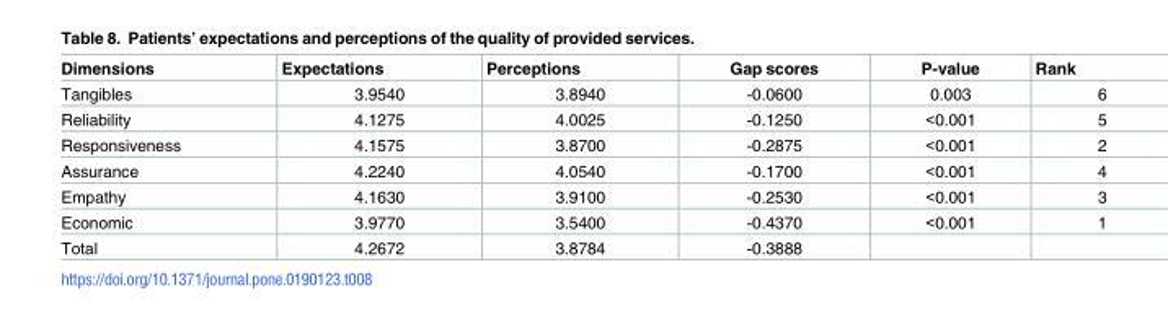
<table><thead><tr><td>Dimensions</td><td>Expectations</td><td>Perceptions</td><td>Gap scores</td><td>P-value</td><td>Rank</td></tr></thead><tbody><tr><td>Tangibles</td><td>3.9540</td><td>3.8940</td><td>-0.0600</td><td>0.003</td><td>6</td></tr><tr><td>Reliability</td><td>4.1275</td><td>4.0025</td><td>-0.1250</td><td>&lt;0.001</td><td>5</td></tr><tr><td>Responsiveness</td><td>4.1575</td><td>3.8700</td><td>-0.2875</td><td>&lt;0.001</td><td>2</td></tr><tr><td>Assurance</td><td>4.2240</td><td>4.0540</td><td>-0.1700</td><td>&lt;0.001</td><td>4</td></tr><tr><td>Empathy</td><td>4.1630</td><td>3.9100</td><td>-0.2530</td><td>&lt;0.001</td><td>3</td></tr><tr><td>Economic</td><td>3.9770</td><td>3.5400</td><td>-0.4370</td><td>&lt;0.001</td><td>1</td></tr><tr><td>Total</td><td>4.2672</td><td>3.8784</td><td>-0.3888</td><td></td><td></td></tr></tbody></table>